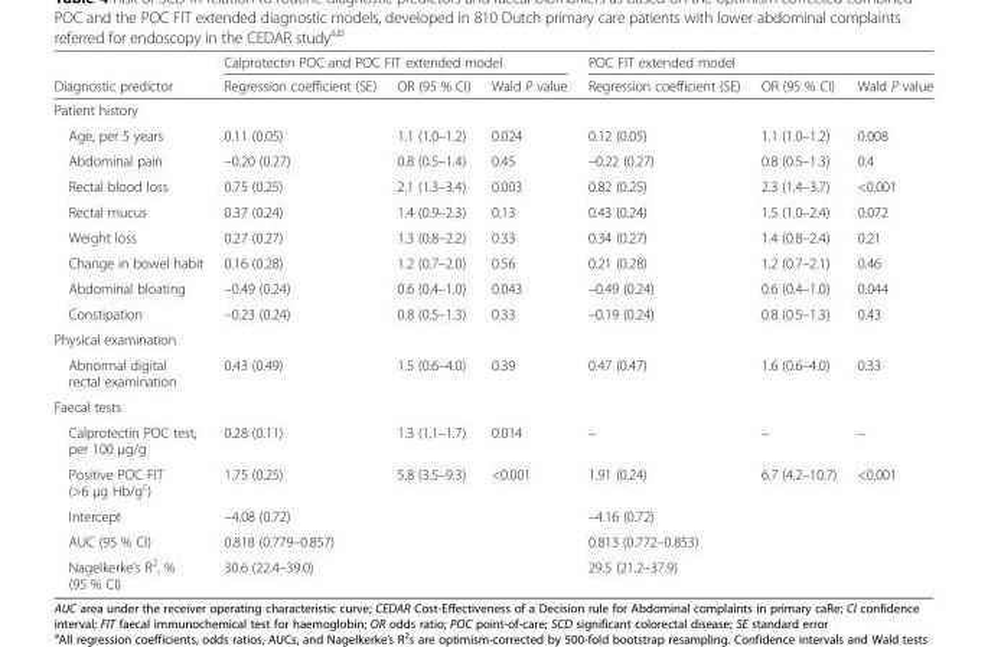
<table><thead><tr><td rowspan="2">Diagnostic predictor</td><td colspan="3">Calprotectin POC and POC FIT extended model</td><td colspan="3">POC FIT extended model</td></tr><tr><td>Regression coefficient (SE)</td><td>OR (95 % CI)</td><td>Wald P value</td><td>Regression coefficient (SE)</td><td>OR (95 % CI)</td><td>Wald P value</td></tr></thead><tbody><tr><td colspan="7">Patient history</td></tr><tr><td>Age, per 5 years</td><td>0.11 (0.05)</td><td>1.1 (1.0–1.2)</td><td>0.024</td><td>0.12 (0.05)</td><td>1.1 (1.0–1.2)</td><td>0.008</td></tr><tr><td>Abdominal pain</td><td>–0.20 (0.27)</td><td>0.8 (0.5–1.4)</td><td>0.45</td><td>–0.22 (0.27)</td><td>0.8 (0.5–1.3)</td><td>0.4</td></tr><tr><td>Rectal blood loss</td><td>0.75 (0.25)</td><td>2.1 (1.3–3.4)</td><td>0.003</td><td>0.82 (0.25)</td><td>2.3 (1.4–3.7)</td><td>&lt;0.001</td></tr><tr><td>Rectal mucus</td><td>0.37 (0.24)</td><td>1.4 (0.9–2.3)</td><td>0.13</td><td>0.43 (0.24)</td><td>1.5 (1.0–2.4)</td><td>0.072</td></tr><tr><td>Weight loss</td><td>0.27 (0.27)</td><td>1.3 (0.8–2.2)</td><td>0.33</td><td>0.34 (0.27)</td><td>1.4 (0.8–2.4)</td><td>0.21</td></tr><tr><td>Change in bowel habit</td><td>0.16 (0.28)</td><td>1.2 (0.7–2.0)</td><td>0.56</td><td>0.21 (0.28)</td><td>1.2 (0.7–2.1)</td><td>0.46</td></tr><tr><td>Abdominal bloating</td><td>–0.49 (0.24)</td><td>0.6 (0.4–1.0)</td><td>0.043</td><td>–0.49 (0.24)</td><td>0.6 (0.4–1.0)</td><td>0.044</td></tr><tr><td>Constipation</td><td>–0.23 (0.24)</td><td>0.8 (0.5–1.3)</td><td>0.33</td><td>–0.19 (0.24)</td><td>0.8 (0.5–1.3)</td><td>0.43</td></tr><tr><td colspan="7">Physical examination</td></tr><tr><td>Abnormal digital rectal examination</td><td>0.43 (0.49)</td><td>1.5 (0.6–4.0)</td><td>0.39</td><td>0.47 (0.47)</td><td>1.6 (0.6–4.0)</td><td>0.33</td></tr><tr><td colspan="7">Faecal tests</td></tr><tr><td>Calprotectin POC test, per 100 μg/g</td><td>0.28 (0.11)</td><td>1.3 (1.1–1.7)</td><td>0.014</td><td>–</td><td>–</td><td>–</td></tr><tr><td>Positive POC FIT (&gt;6 μg Hb/g<sup>c</sup>)</td><td>1.75 (0.25)</td><td>5.8 (3.5–9.3)</td><td>&lt;0.001</td><td>1.91 (0.24)</td><td>6.7 (4.2–10.7)</td><td>&lt;0.001</td></tr><tr><td>Intercept</td><td>–4.08 (0.72)</td><td></td><td></td><td>–4.16 (0.72)</td><td></td><td></td></tr><tr><td>AUC (95 % CI)</td><td colspan="3">0.818 (0.779–0.857)</td><td colspan="3">0.813 (0.772–0.853)</td></tr><tr><td>Nagelkerke’s R<sup>2</sup>, % (95 % CI)</td><td colspan="3">30.6 (22.4–39.0)</td><td colspan="3">29.5 (21.2–37.9)</td></tr></tbody></table>